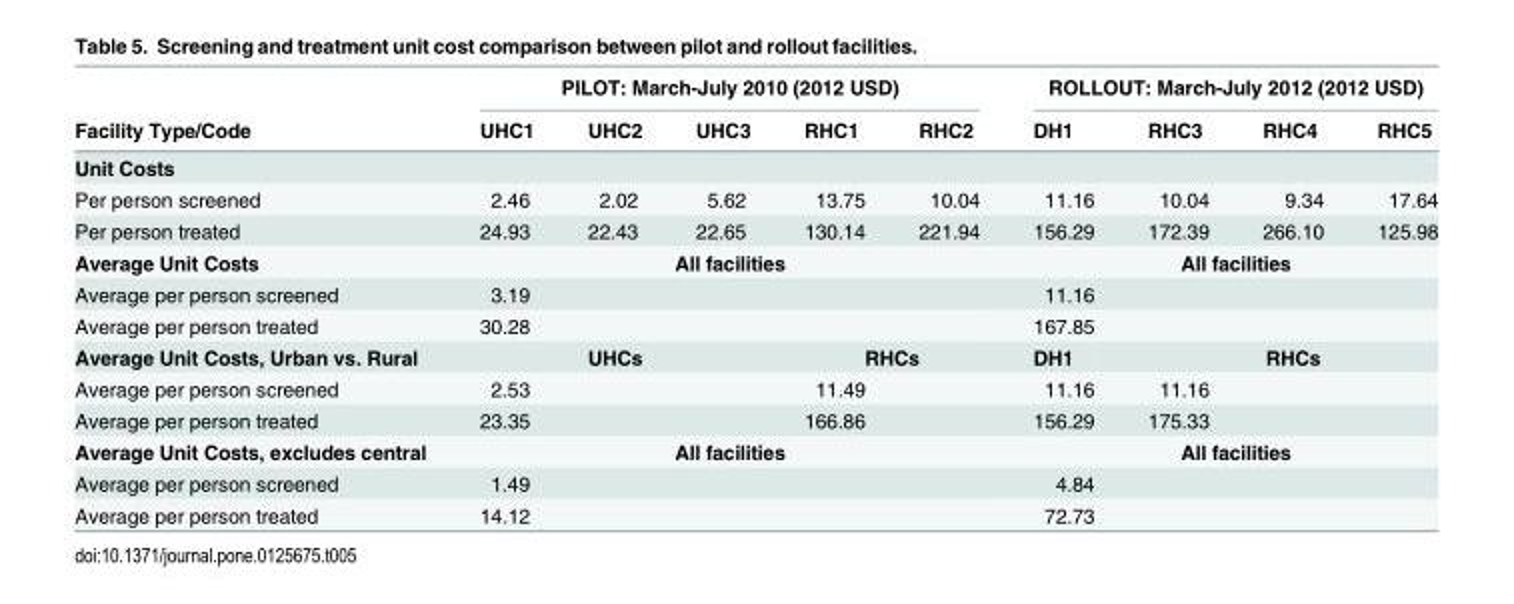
<table><thead><tr><td rowspan="2">Facility Type/Code</td><td colspan="5">PILOT: March-July 2010 (2012 USD)</td><td colspan="4">ROLLOUT: March-July 2012 (2012 USD)</td></tr><tr><td>UHC1</td><td>UHC2</td><td>UHC3</td><td>RHC1</td><td>RHC2</td><td>DH1</td><td>RHC3</td><td>RHC4</td><td>RHC5</td></tr></thead><tbody><tr><td colspan="10">Unit Costs</td></tr><tr><td>Per person screened</td><td>2.46</td><td>2.02</td><td>5.62</td><td>13.75</td><td>10.04</td><td>11.16</td><td>10.04</td><td>9.34</td><td>17.64</td></tr><tr><td>Per person treated</td><td>24.93</td><td>22.43</td><td>22.65</td><td>130.14</td><td>221.94</td><td>156.29</td><td>172.39</td><td>266.10</td><td>125.98</td></tr><tr><td>Average Unit Costs</td><td colspan="5">All facilities</td><td colspan="4">All facilities</td></tr><tr><td>Average per person screened</td><td colspan="5">3.19</td><td colspan="4">11.16</td></tr><tr><td>Average per person treated</td><td colspan="5">30.28</td><td colspan="4">167.85</td></tr><tr><td>Average Unit Costs, Urban vs. Rural</td><td colspan="3">UHCs</td><td colspan="2">RHCs</td><td>DH1</td><td colspan="3">RHCs</td></tr><tr><td>Average per person screened</td><td colspan="3">2.53</td><td colspan="2">11.49</td><td>11.16</td><td colspan="3">11.16</td></tr><tr><td>Average per person treated</td><td colspan="3">23.35</td><td colspan="2">166.86</td><td>156.29</td><td colspan="3">175.33</td></tr><tr><td>Average Unit Costs, excludes central</td><td colspan="5">All facilities</td><td colspan="4">All facilities</td></tr><tr><td>Average per person screened</td><td colspan="5">1.49</td><td colspan="4">4.84</td></tr><tr><td>Average per person treated</td><td colspan="5">14.12</td><td colspan="4">72.73</td></tr></tbody></table>